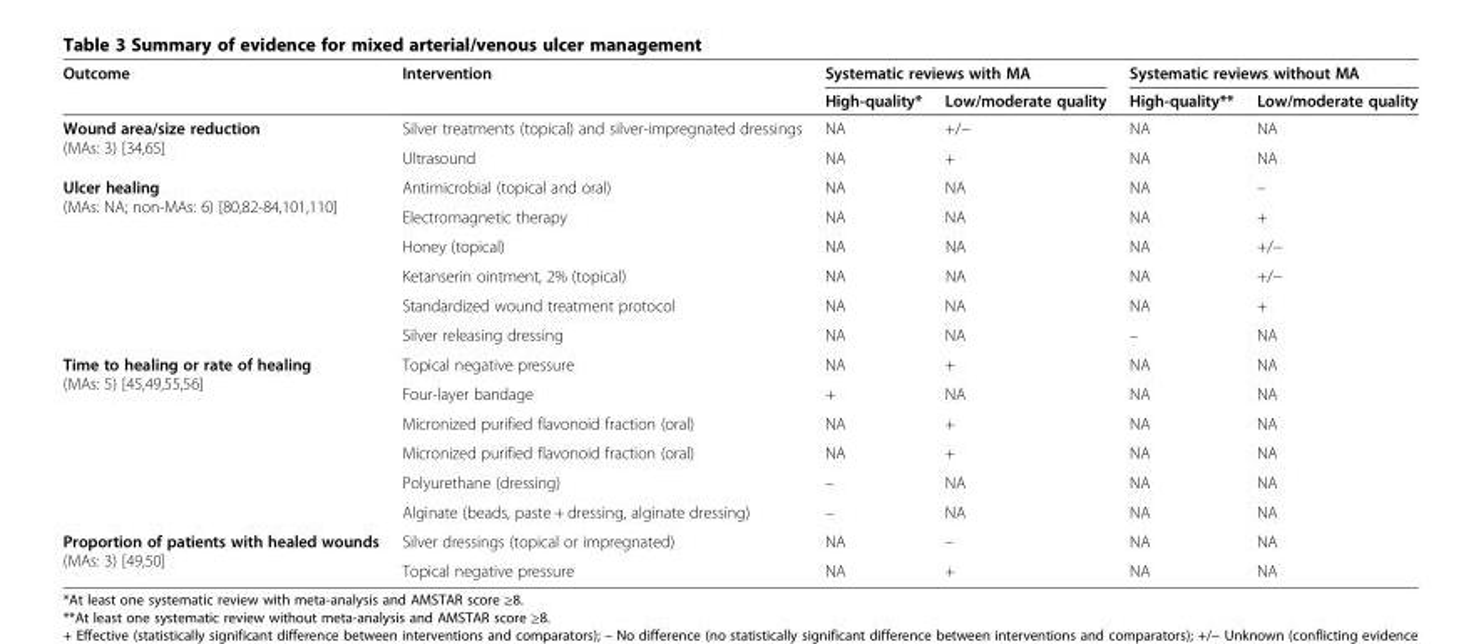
<table><thead><tr><td rowspan="2">Outcome</td><td rowspan="2">Intervention</td><td colspan="2">Systematic reviews with MA</td><td colspan="2">Systematic reviews without MA</td></tr><tr><td>High-quality*</td><td>Low/moderate quality</td><td>High-quality**</td><td>Low/moderate quality</td></tr></thead><tbody><tr><td rowspan="2">Wound area/size reduction (MAs: 3) [34,65]</td><td>Silver treatments (topical) and silver-impregnated dressings</td><td>NA</td><td>+/−</td><td>NA</td><td>NA</td></tr><tr><td>Ultrasound</td><td>NA</td><td>+</td><td>NA</td><td>NA</td></tr><tr><td rowspan="6">Ulcer healing (MAs: NA; non-MAs: 6) [80,82-84,101,110]</td><td>Antimicrobial (topical and oral)</td><td>NA</td><td>NA</td><td>NA</td><td>–</td></tr><tr><td>Electromagnetic therapy</td><td>NA</td><td>NA</td><td>NA</td><td>+</td></tr><tr><td>Honey (topical)</td><td>NA</td><td>NA</td><td>NA</td><td>+/−</td></tr><tr><td>Ketanserin ointment, 2% (topical)</td><td>NA</td><td>NA</td><td>NA</td><td>+/−</td></tr><tr><td>Standardized wound treatment protocol</td><td>NA</td><td>NA</td><td>NA</td><td>+</td></tr><tr><td>Silver releasing dressing</td><td>NA</td><td>NA</td><td>–</td><td>NA</td></tr><tr><td rowspan="6">Time to healing or rate of healing (MAs: 5) [45,49,55,56]</td><td>Topical negative pressure</td><td>NA</td><td>+</td><td>NA</td><td>NA</td></tr><tr><td>Four-layer bandage</td><td>+</td><td>NA</td><td>NA</td><td>NA</td></tr><tr><td>Micronized purified flavonoid fraction (oral)</td><td>NA</td><td>+</td><td>NA</td><td>NA</td></tr><tr><td>Micronized purified flavonoid fraction (oral)</td><td>NA</td><td>+</td><td>NA</td><td>NA</td></tr><tr><td>Polyurethane (dressing)</td><td>–</td><td>NA</td><td>NA</td><td>NA</td></tr><tr><td>Alginate (beads, paste + dressing, alginate dressing)</td><td>–</td><td>NA</td><td>NA</td><td>NA</td></tr><tr><td rowspan="2">Proportion of patients with healed wounds (MAs: 3) [49,50]</td><td>Silver dressings (topical or impregnated)</td><td>NA</td><td>–</td><td>NA</td><td>NA</td></tr><tr><td>Topical negative pressure</td><td>NA</td><td>+</td><td>NA</td><td>NA</td></tr></tbody></table>